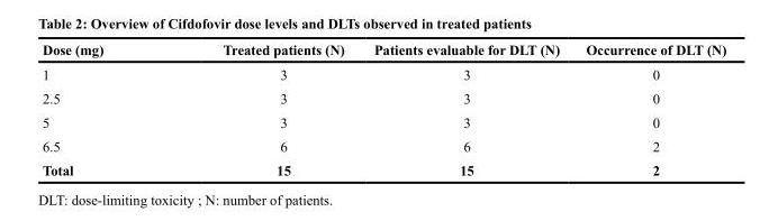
<table><thead><tr><td>Dose (mg)</td><td>Treated patients (N)</td><td>Patients evaluable for DLT (N)</td><td>Occurrence of DLT (N)</td></tr></thead><tbody><tr><td>1</td><td>3</td><td>3</td><td>0</td></tr><tr><td>2.5</td><td>3</td><td>3</td><td>0</td></tr><tr><td>5</td><td>3</td><td>3</td><td>0</td></tr><tr><td>6.5</td><td>6</td><td>6</td><td>2</td></tr><tr><td>Total</td><td>15</td><td>15</td><td>2</td></tr></tbody></table>